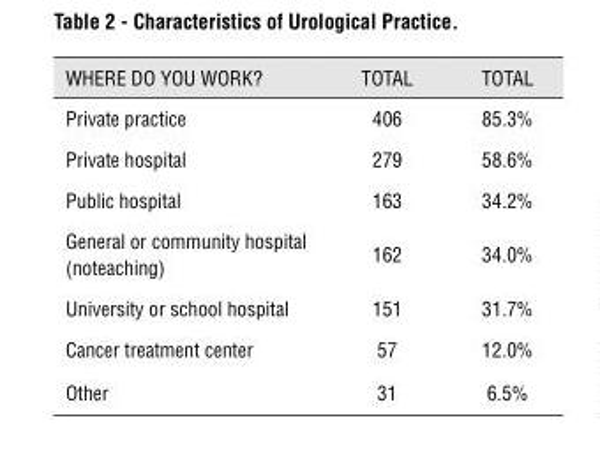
<table><thead><tr><td>WHERE DO YOU WORK?</td><td>TOTAL</td><td>TOTAL</td></tr></thead><tbody><tr><td>Private practice</td><td>406</td><td>85.3%</td></tr><tr><td>Private hospital</td><td>279</td><td>58.6%</td></tr><tr><td>Public hospital</td><td>163</td><td>34.2%</td></tr><tr><td>General or community hospital (noteaching)</td><td>162</td><td>34.0%</td></tr><tr><td>University or school hospital</td><td>151</td><td>31.7%</td></tr><tr><td>Cancer treatment center</td><td>57</td><td>12.0%</td></tr><tr><td>Other</td><td>31</td><td>6.5%</td></tr></tbody></table>